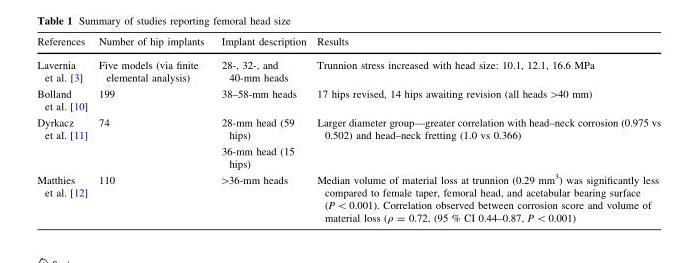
<table><thead><tr><td>References</td><td>Number of hip implants</td><td>Implant description</td><td>Results</td></tr></thead><tbody><tr><td>Lavernia et al. [3]</td><td>Five models (via finite elemental analysis)</td><td>28-, 32-, and 40-mm heads</td><td>Trunnion stress increased with head size: 10.1, 12.1, 16.6 MPa</td></tr><tr><td>Bolland et al. [10]</td><td>199</td><td>38–58-mm heads</td><td>17 hips revised, 14 hips awaiting revision (all heads &gt;40 mm)</td></tr><tr><td rowspan="2">Dyrkacz et al. [11]</td><td rowspan="2">74</td><td>28-mm head (59 hips)</td><td rowspan="2">Larger diameter group––greater correlation with head–neck corrosion (0.975 vs 0.502) and head–neck fretting (1.0 vs 0.366)</td></tr><tr><td>36-mm head (15 hips)</td></tr><tr><td>Matthies et al. [12]</td><td>110</td><td>&gt;36-mm heads</td><td>Median volume of material loss at trunnion (0.29 mm<sup>3</sup>) was significantly less compared to female taper, femoral head, and acetabular bearing surface (P &lt; 0.001). Correlation observed between corrosion score and volume of material loss (ρ = 0.72, (95 % CI 0.44–0.87, P &lt; 0.001)</td></tr></tbody></table>